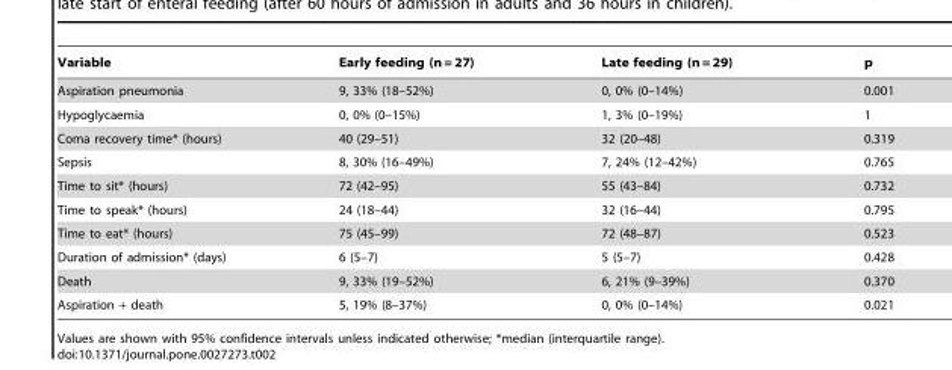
<table><thead><tr><td>Variable</td><td>Early feeding (n = 27)</td><td>Late feeding (n = 29)</td><td>p</td></tr></thead><tbody><tr><td>Aspiration pneumonia</td><td>9, 33% (18–52%)</td><td>0, 0% (0–14%)</td><td>0.001</td></tr><tr><td>Hypoglycaemia</td><td>0, 0% (0–15%)</td><td>1, 3% (0–19%)</td><td>1</td></tr><tr><td>Coma recovery time* (hours)</td><td>40 (29–51)</td><td>32 (20–48)</td><td>0.319</td></tr><tr><td>Sepsis</td><td>8, 30% (16–49%)</td><td>7, 24% (12–42%)</td><td>0.765</td></tr><tr><td>Time to sit* (hours)</td><td>72 (42–95)</td><td>55 (43–84)</td><td>0.732</td></tr><tr><td>Time to speak* (hours)</td><td>24 (18–44)</td><td>32 (16–44)</td><td>0.795</td></tr><tr><td>Time to eat* (hours)</td><td>75 (45–99)</td><td>72 (48–87)</td><td>0.523</td></tr><tr><td>Duration of admission* (days)</td><td>6 (5–7)</td><td>5 (5–7)</td><td>0.428</td></tr><tr><td>Death</td><td>9, 33% (19–52%)</td><td>6, 21% (9–39%)</td><td>0.370</td></tr><tr><td>Aspiration + death</td><td>5, 19% (8–37%)</td><td>0, 0% (0–14%)</td><td>0.021</td></tr></tbody></table>